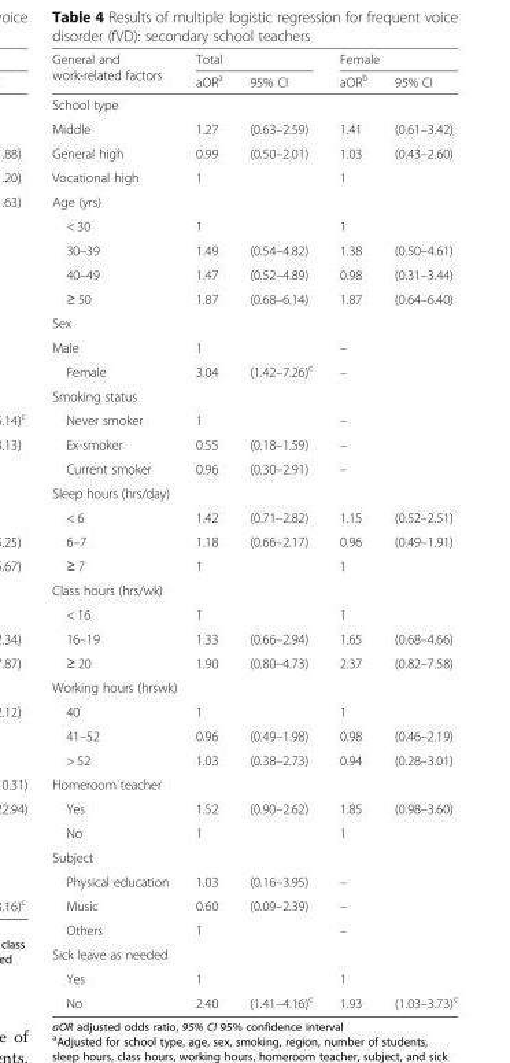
<table><thead><tr><td rowspan="2">General and work-related factors</td><td colspan="2">Total</td><td colspan="2">Female</td></tr><tr><td>aOR<sup>a</sup></td><td>95% CI</td><td>aOR<sup>b</sup></td><td>95% CI</td></tr></thead><tbody><tr><td colspan="5">School type</td></tr><tr><td>Middle</td><td>1.27</td><td>(0.63–2.59)</td><td>1.41</td><td>(0.61–3.42)</td></tr><tr><td>General high</td><td>0.99</td><td>(0.50–2.01)</td><td>1.03</td><td>(0.43–2.60)</td></tr><tr><td>Vocational high</td><td>1</td><td></td><td>1</td><td></td></tr><tr><td colspan="5">Age (yrs)</td></tr><tr><td>&lt; 30</td><td>1</td><td></td><td>1</td><td></td></tr><tr><td>30–39</td><td>1.49</td><td>(0.54–4.82)</td><td>1.38</td><td>(0.50–4.61)</td></tr><tr><td>40–49</td><td>1.47</td><td>(0.52–4.89)</td><td>0.98</td><td>(0.31–3.44)</td></tr><tr><td>≥ 50</td><td>1.87</td><td>(0.68–6.14)</td><td>1.87</td><td>(0.64–6.40)</td></tr><tr><td colspan="5">Sex</td></tr><tr><td>Male</td><td>1</td><td></td><td>–</td><td></td></tr><tr><td>Female</td><td>3.04</td><td>(1.42–7.26)<sup>c</sup></td><td>–</td><td></td></tr><tr><td colspan="5">Smoking status</td></tr><tr><td>Never smoker</td><td>1</td><td></td><td>–</td><td></td></tr><tr><td>Ex-smoker</td><td>0.55</td><td>(0.18–1.59)</td><td>–</td><td></td></tr><tr><td>Current smoker</td><td>0.96</td><td>(0.30–2.91)</td><td>–</td><td></td></tr><tr><td colspan="5">Sleep hours (hrs/day)</td></tr><tr><td>&lt; 6</td><td>1.42</td><td>(0.71–2.82)</td><td>1.15</td><td>(0.52–2.51)</td></tr><tr><td>6–7</td><td>1.18</td><td>(0.66–2.17)</td><td>0.96</td><td>(0.49–1.91)</td></tr><tr><td>≥ 7</td><td>1</td><td></td><td>1</td><td></td></tr><tr><td colspan="5">Class hours (hrs/wk)</td></tr><tr><td>&lt; 16</td><td>1</td><td></td><td>1</td><td></td></tr><tr><td>16–19</td><td>1.33</td><td>(0.66–2.94)</td><td>1.65</td><td>(0.68–4.66)</td></tr><tr><td>≥ 20</td><td>1.90</td><td>(0.80–4.73)</td><td>2.37</td><td>(0.82–7.58)</td></tr><tr><td colspan="5">Working hours (hrswk)</td></tr><tr><td>40</td><td>1</td><td></td><td>1</td><td></td></tr><tr><td>41–52</td><td>0.96</td><td>(0.49–1.98)</td><td>0.98</td><td>(0.46–2.19)</td></tr><tr><td>&gt; 52</td><td>1.03</td><td>(0.38–2.73)</td><td>0.94</td><td>(0.28–3.01)</td></tr><tr><td colspan="5">Homeroom teacher</td></tr><tr><td>Yes</td><td>1.52</td><td>(0.90–2.62)</td><td>1.85</td><td>(0.98–3.60)</td></tr><tr><td>No</td><td>1</td><td></td><td>1</td><td></td></tr><tr><td colspan="5">Subject</td></tr><tr><td>Physical education</td><td>1.03</td><td>(0.16–3.95)</td><td>–</td><td></td></tr><tr><td>Music</td><td>0.60</td><td>(0.09–2.39)</td><td>–</td><td></td></tr><tr><td>Others</td><td>1</td><td></td><td>–</td><td></td></tr><tr><td colspan="5">Sick leave as needed</td></tr><tr><td>Yes</td><td>1</td><td></td><td>1</td><td></td></tr><tr><td>No</td><td>2.40</td><td>(1.41–4.16)<sup>c</sup></td><td>1.93</td><td>(1.03–3.73)<sup>c</sup></td></tr></tbody></table>